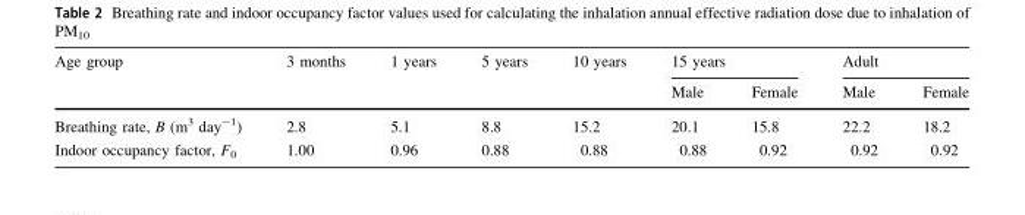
<table><thead><tr><td rowspan="2">Age group</td><td rowspan="2">3 months</td><td rowspan="2">1 years</td><td rowspan="2">5 years</td><td rowspan="2">10 years</td><td colspan="2">15 years</td><td colspan="2">Adult</td></tr><tr><td>Male</td><td>Female</td><td>Male</td><td>Female</td></tr></thead><tbody><tr><td>Breathing rate, B (m<sup>3</sup> day<sup>-1</sup>)</td><td>2.8</td><td>5.1</td><td>8.8</td><td>15.2</td><td>20.1</td><td>15.8</td><td>22.2</td><td>18.2</td></tr><tr><td>Indoor occupancy factor, F<sub>0</sub></td><td>1.00</td><td>0.96</td><td>0.88</td><td>0.88</td><td>0.88</td><td>0.92</td><td>0.92</td><td>0.92</td></tr></tbody></table>